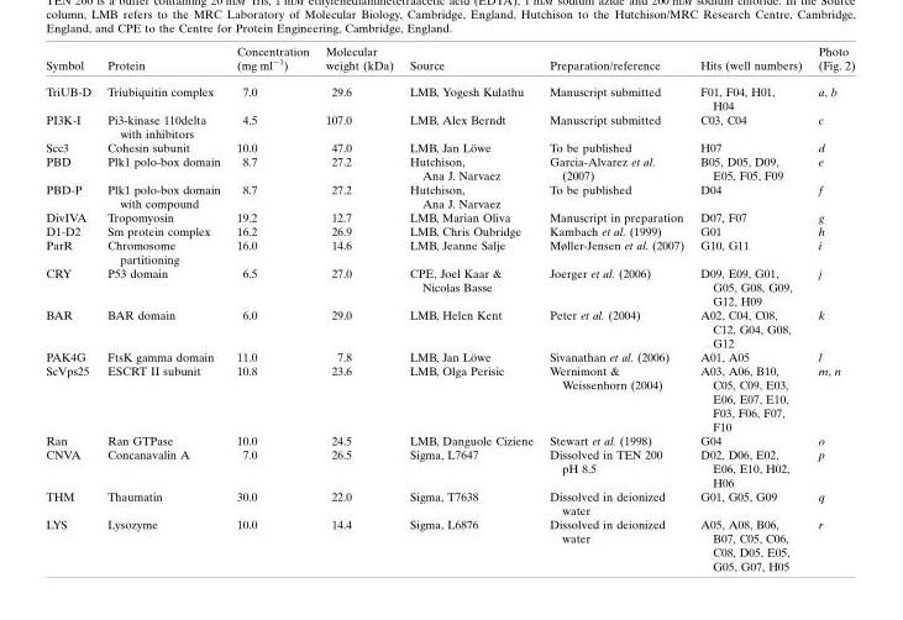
<table><thead><tr><td>Symbol</td><td>Protein</td><td>Concentration (mg ml�1)</td><td>Molecular weight (kDa)</td><td>Source</td><td>Preparation/reference</td><td>Hits (well numbers)</td><td>Photo (Fig. 2)</td></tr></thead><tbody><tr><td>TriUB-D</td><td>Triubiquitin complex</td><td>7.0</td><td>29.6</td><td>LMB, Yogesh Kulathu</td><td>Manuscript submitted</td><td>F01, F04, H01, H04</td><td>a, b</td></tr><tr><td>PI3K-I</td><td>Pi3-kinase 110delta with inhibitors</td><td>4.5</td><td>107.0</td><td>LMB, Alex Berndt</td><td>Manuscript submitted</td><td>C03, C04</td><td>c</td></tr><tr><td>Scc3</td><td>Cohesin subunit</td><td>10.0</td><td>47.0</td><td>LMB, Jan Lo¨we</td><td>To be published</td><td>H07</td><td>d</td></tr><tr><td>PBD</td><td>Plk1 polo-box domain</td><td>8.7</td><td>27.2</td><td>Hutchison, Ana J. Narvaez</td><td>Garcia-Alvarez et al. (2007)</td><td>B05, D05, D09, E05, F05, F09</td><td>e</td></tr><tr><td>PBD-P</td><td>Plk1 polo-box domain with compound</td><td>8.7</td><td>27.2</td><td>Hutchison, Ana J. Narvaez</td><td>To be published</td><td>D04</td><td>f</td></tr><tr><td>DivIVA</td><td>Tropomyosin</td><td>19.2</td><td>12.7</td><td>LMB, Marian Oliva</td><td>Manuscript in preparation</td><td>D07, F07</td><td>g</td></tr><tr><td>D1-D2</td><td>Sm protein complex</td><td>16.2</td><td>26.9</td><td>LMB, Chris Oubridge</td><td>Kambach et al. (1999)</td><td>G01</td><td>h</td></tr><tr><td>ParR</td><td>Chromosome partitioning</td><td>16.0</td><td>14.6</td><td>LMB, Jeanne Salje</td><td>Møller-Jensen et al. (2007)</td><td>G10, G11</td><td>i</td></tr><tr><td>CRY</td><td>P53 domain</td><td>6.5</td><td>27.0</td><td>CPE, Joel Kaar &amp; Nicolas Basse</td><td>Joerger et al. (2006)</td><td>D09, E09, G01, G05, G08, G09, G12, H09</td><td>j</td></tr><tr><td>BAR</td><td>BAR domain</td><td>6.0</td><td>29.0</td><td>LMB, Helen Kent</td><td>Peter et al. (2004)</td><td>A02, C04, C08, C12, G04, G08, G12</td><td>k</td></tr><tr><td>PAK4G</td><td>FtsK gamma domain</td><td>11.0</td><td>7.8</td><td>LMB, Jan Lo¨we</td><td>Sivanathan et al. (2006)</td><td>A01, A05</td><td>l</td></tr><tr><td>ScVps25</td><td>ESCRT II subunit</td><td>10.8</td><td>23.6</td><td>LMB, Olga Perisic</td><td>Wernimont &amp; Weissenhorn (2004)</td><td>A03, A06, B10, C05, C09, E03, E06, E07, E10, F03, F06, F07, F10</td><td>m, n</td></tr><tr><td>Ran</td><td>Ran GTPase</td><td>10.0</td><td>24.5</td><td>LMB, Danguole Ciziene</td><td>Stewart et al. (1998)</td><td>G04</td><td>o</td></tr><tr><td>CNVA</td><td>Concanavalin A</td><td>7.0</td><td>26.5</td><td>Sigma, L7647</td><td>Dissolved in TEN 200 pH 8.5</td><td>D02, D06, E02, E06, E10, H02, H06</td><td>p</td></tr><tr><td>THM</td><td>Thaumatin</td><td>30.0</td><td>22.0</td><td>Sigma, T7638</td><td>Dissolved in deionized water</td><td>G01, G05, G09</td><td>q</td></tr><tr><td>LYS</td><td>Lysozyme</td><td>10.0</td><td>14.4</td><td>Sigma, L6876</td><td>Dissolved in deionized water</td><td>A05, A08, B06, B07, C05, C06, C08, D05, E05, G05, G07, H05</td><td>r</td></tr></tbody></table>